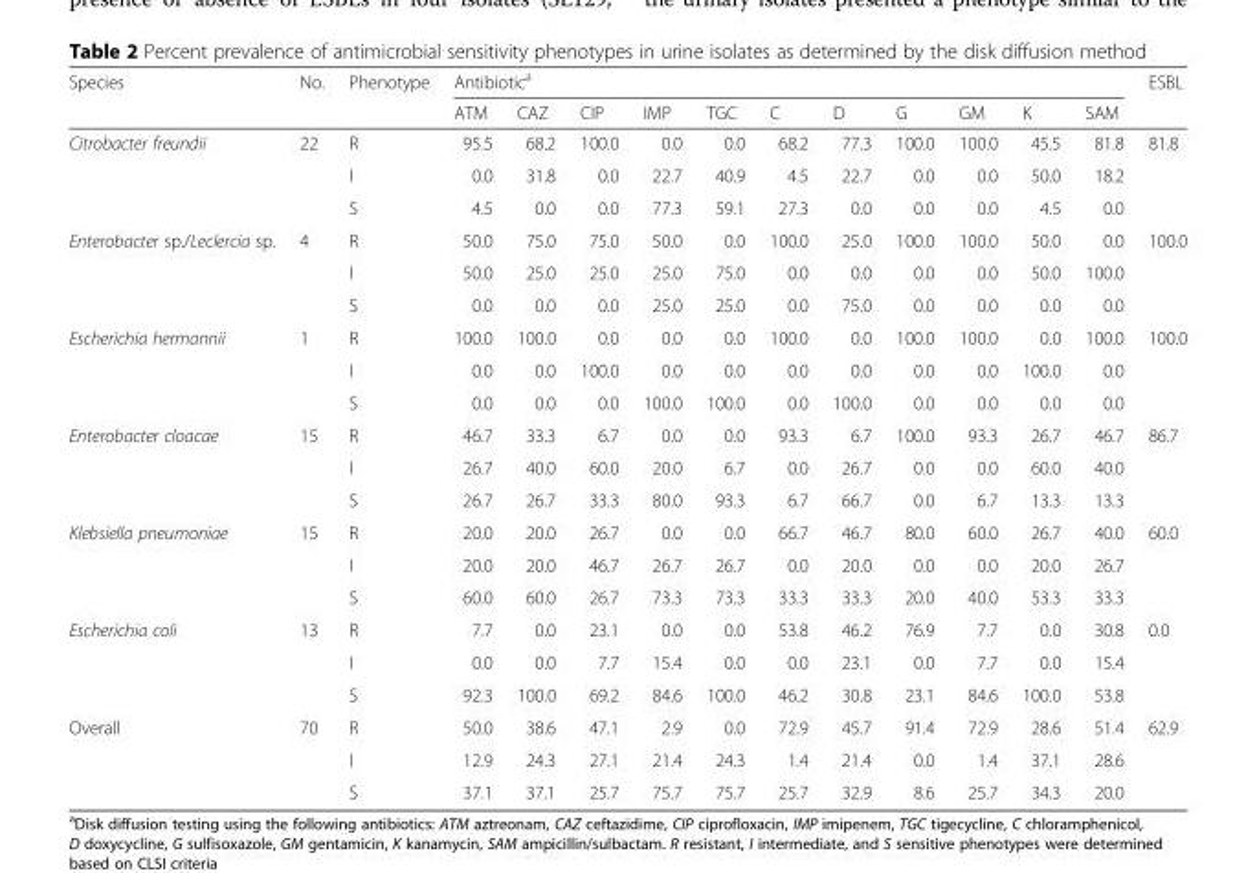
<table><thead><tr><td rowspan="2">Species</td><td rowspan="2">No.</td><td rowspan="2">Phenotype</td><td colspan="11">Antibiotic<sup>a</sup></td><td rowspan="2">ESBL</td></tr><tr><td>ATM</td><td>CAZ</td><td>CIP</td><td>IMP</td><td>TGC</td><td>C</td><td>D</td><td>G</td><td>GM</td><td>K</td><td>SAM</td></tr></thead><tbody><tr><td rowspan="3">Citrobacter freundii</td><td rowspan="3">22</td><td>R</td><td>95.5</td><td>68.2</td><td>100.0</td><td>0.0</td><td>0.0</td><td>68.2</td><td>77.3</td><td>100.0</td><td>100.0</td><td>45.5</td><td>81.8</td><td rowspan="3">81.8</td></tr><tr><td>I</td><td>0.0</td><td>31.8</td><td>0.0</td><td>22.7</td><td>40.9</td><td>4.5</td><td>22.7</td><td>0.0</td><td>0.0</td><td>50.0</td><td>18.2</td></tr><tr><td>S</td><td>4.5</td><td>0.0</td><td>0.0</td><td>77.3</td><td>59.1</td><td>27.3</td><td>0.0</td><td>0.0</td><td>0.0</td><td>4.5</td><td>0.0</td></tr><tr><td rowspan="3">Enterobacter sp./Leclercia sp.</td><td rowspan="3">4</td><td>R</td><td>50.0</td><td>75.0</td><td>75.0</td><td>50.0</td><td>0.0</td><td>100.0</td><td>25.0</td><td>100.0</td><td>100.0</td><td>50.0</td><td>0.0</td><td rowspan="3">100.0</td></tr><tr><td>I</td><td>50.0</td><td>25.0</td><td>25.0</td><td>25.0</td><td>75.0</td><td>0.0</td><td>0.0</td><td>0.0</td><td>0.0</td><td>50.0</td><td>100.0</td></tr><tr><td>S</td><td>0.0</td><td>0.0</td><td>0.0</td><td>25.0</td><td>25.0</td><td>0.0</td><td>75.0</td><td>0.0</td><td>0.0</td><td>0.0</td><td>0.0</td></tr><tr><td rowspan="3">Escherichia hermannii</td><td rowspan="3">1</td><td>R</td><td>100.0</td><td>100.0</td><td>0.0</td><td>0.0</td><td>0.0</td><td>100.0</td><td>0.0</td><td>100.0</td><td>100.0</td><td>0.0</td><td>100.0</td><td rowspan="3">100.0</td></tr><tr><td>I</td><td>0.0</td><td>0.0</td><td>100.0</td><td>0.0</td><td>0.0</td><td>0.0</td><td>0.0</td><td>0.0</td><td>0.0</td><td>100.0</td><td>0.0</td></tr><tr><td>S</td><td>0.0</td><td>0.0</td><td>0.0</td><td>100.0</td><td>100.0</td><td>0.0</td><td>100.0</td><td>0.0</td><td>0.0</td><td>0.0</td><td>0.0</td></tr><tr><td rowspan="3">Enterobacter cloacae</td><td rowspan="3">15</td><td>R</td><td>46.7</td><td>33.3</td><td>6.7</td><td>0.0</td><td>0.0</td><td>93.3</td><td>6.7</td><td>100.0</td><td>93.3</td><td>26.7</td><td>46.7</td><td rowspan="3">86.7</td></tr><tr><td>I</td><td>26.7</td><td>40.0</td><td>60.0</td><td>20.0</td><td>6.7</td><td>0.0</td><td>26.7</td><td>0.0</td><td>0.0</td><td>60.0</td><td>40.0</td></tr><tr><td>S</td><td>26.7</td><td>26.7</td><td>33.3</td><td>80.0</td><td>93.3</td><td>6.7</td><td>66.7</td><td>0.0</td><td>6.7</td><td>13.3</td><td>13.3</td></tr><tr><td rowspan="3">Klebsiella pneumoniae</td><td rowspan="3">15</td><td>R</td><td>20.0</td><td>20.0</td><td>26.7</td><td>0.0</td><td>0.0</td><td>66.7</td><td>46.7</td><td>80.0</td><td>60.0</td><td>26.7</td><td>40.0</td><td rowspan="3">60.0</td></tr><tr><td>I</td><td>20.0</td><td>20.0</td><td>46.7</td><td>26.7</td><td>26.7</td><td>0.0</td><td>20.0</td><td>0.0</td><td>0.0</td><td>20.0</td><td>26.7</td></tr><tr><td>S</td><td>60.0</td><td>60.0</td><td>26.7</td><td>73.3</td><td>73.3</td><td>33.3</td><td>33.3</td><td>20.0</td><td>40.0</td><td>53.3</td><td>33.3</td></tr><tr><td rowspan="3">Escherichia coli</td><td rowspan="3">13</td><td>R</td><td>7.7</td><td>0.0</td><td>23.1</td><td>0.0</td><td>0.0</td><td>53.8</td><td>46.2</td><td>76.9</td><td>7.7</td><td>0.0</td><td>30.8</td><td rowspan="3">0.0</td></tr><tr><td>I</td><td>0.0</td><td>0.0</td><td>7.7</td><td>15.4</td><td>0.0</td><td>0.0</td><td>23.1</td><td>0.0</td><td>7.7</td><td>0.0</td><td>15.4</td></tr><tr><td>S</td><td>92.3</td><td>100.0</td><td>69.2</td><td>84.6</td><td>100.0</td><td>46.2</td><td>30.8</td><td>23.1</td><td>84.6</td><td>100.0</td><td>53.8</td></tr><tr><td rowspan="3">Overall</td><td rowspan="3">70</td><td>R</td><td>50.0</td><td>38.6</td><td>47.1</td><td>2.9</td><td>0.0</td><td>72.9</td><td>45.7</td><td>91.4</td><td>72.9</td><td>28.6</td><td>51.4</td><td rowspan="3">62.9</td></tr><tr><td>I</td><td>12.9</td><td>24.3</td><td>27.1</td><td>21.4</td><td>24.3</td><td>1.4</td><td>21.4</td><td>0.0</td><td>1.4</td><td>37.1</td><td>28.6</td></tr><tr><td>S</td><td>37.1</td><td>37.1</td><td>25.7</td><td>75.7</td><td>75.7</td><td>25.7</td><td>32.9</td><td>8.6</td><td>25.7</td><td>34.3</td><td>20.0</td></tr></tbody></table>